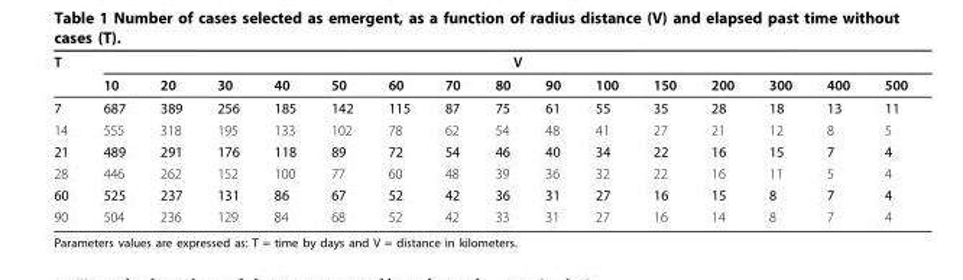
<table><thead><tr><td rowspan="2">T</td><td colspan="15">V</td></tr><tr><td>10</td><td>20</td><td>30</td><td>40</td><td>50</td><td>60</td><td>70</td><td>80</td><td>90</td><td>100</td><td>150</td><td>200</td><td>300</td><td>400</td><td>500</td></tr></thead><tbody><tr><td>7</td><td>687</td><td>389</td><td>256</td><td>185</td><td>142</td><td>115</td><td>87</td><td>75</td><td>61</td><td>55</td><td>35</td><td>28</td><td>18</td><td>13</td><td>11</td></tr><tr><td>14</td><td>555</td><td>318</td><td>195</td><td>133</td><td>102</td><td>78</td><td>62</td><td>54</td><td>48</td><td>41</td><td>27</td><td>21</td><td>12</td><td>8</td><td>5</td></tr><tr><td>21</td><td>489</td><td>291</td><td>176</td><td>118</td><td>89</td><td>72</td><td>54</td><td>46</td><td>40</td><td>34</td><td>22</td><td>16</td><td>15</td><td>7</td><td>4</td></tr><tr><td>28</td><td>446</td><td>262</td><td>152</td><td>100</td><td>77</td><td>60</td><td>48</td><td>39</td><td>36</td><td>32</td><td>22</td><td>16</td><td>11</td><td>5</td><td>4</td></tr><tr><td>60</td><td>525</td><td>237</td><td>131</td><td>86</td><td>67</td><td>52</td><td>42</td><td>36</td><td>31</td><td>27</td><td>16</td><td>15</td><td>8</td><td>7</td><td>4</td></tr><tr><td>90</td><td>504</td><td>236</td><td>129</td><td>84</td><td>68</td><td>52</td><td>42</td><td>33</td><td>31</td><td>27</td><td>16</td><td>14</td><td>8</td><td>7</td><td>4</td></tr></tbody></table>